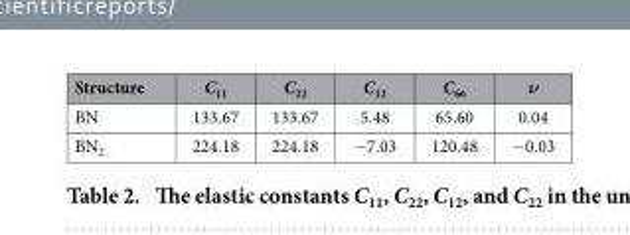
<table><thead><tr><td>Structure</td><td>C<sub>11</sub></td><td>C<sub>22</sub></td><td>C<sub>12</sub></td><td>C<sub>66</sub></td><td>ν</td></tr></thead><tbody><tr><td>BN</td><td>133.67</td><td>133.67</td><td>5.48</td><td>65.60</td><td>0.04</td></tr><tr><td>BN<sub>2</sub></td><td>224.18</td><td>224.18</td><td>− 7.03</td><td>120.48</td><td>− 0.03</td></tr></tbody></table>